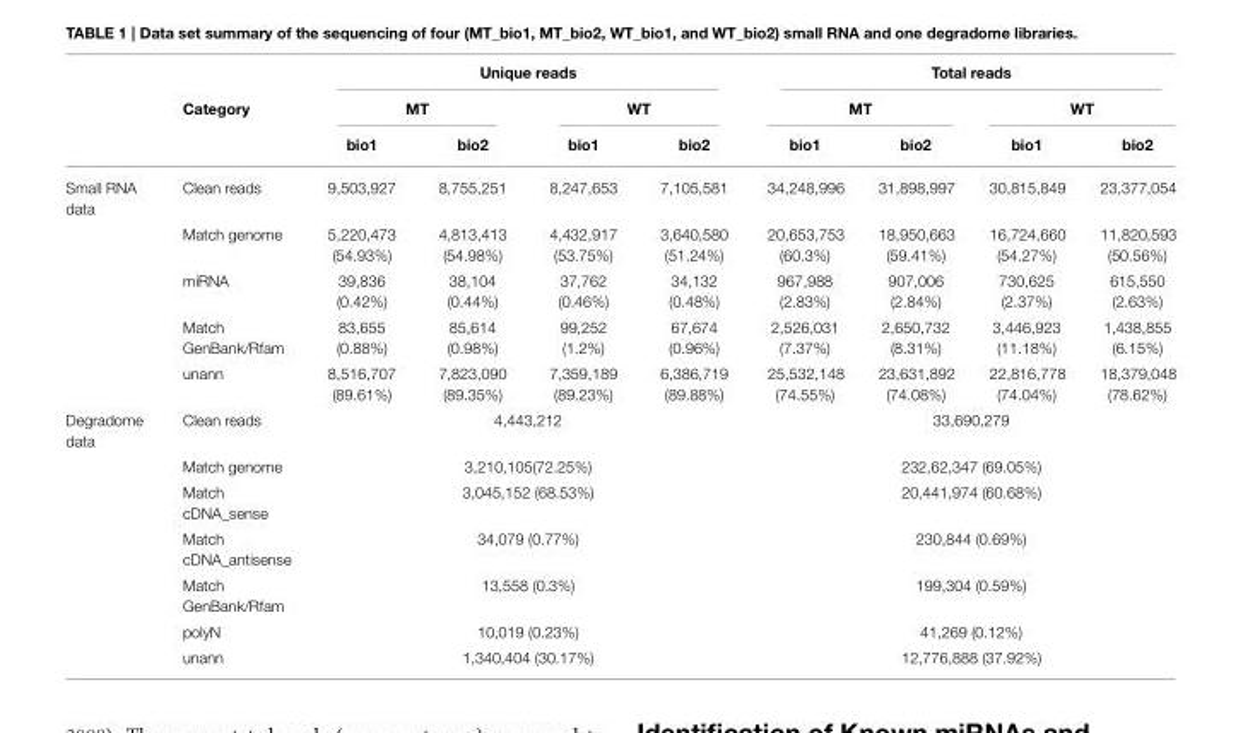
<table><thead><tr><td rowspan="3"></td><td rowspan="3">Category</td><td colspan="4">Unique reads</td><td colspan="4">Total reads</td></tr><tr><td colspan="2">MT</td><td colspan="2">WT</td><td colspan="2">MT</td><td colspan="2">WT</td></tr><tr><td>bio1</td><td>bio2</td><td>bio1</td><td>bio2</td><td>bio1</td><td>bio2</td><td>bio1</td><td>bio2</td></tr></thead><tbody><tr><td rowspan="5">Small RNA data</td><td>Clean reads</td><td>9,503,927</td><td>8,755,251</td><td>8,247,653</td><td>7,105,581</td><td>34,248,996</td><td>31,898,997</td><td>30,815,849</td><td>23,377,054</td></tr><tr><td>Match genome</td><td>5,220,473 (54.93%)</td><td>4,813,413 (54.98%)</td><td>4,432,917 (53.75%)</td><td>3,640,580 (51.24%)</td><td>20,653,753 (60.3%)</td><td>18,950,663 (59.41%)</td><td>16,724,660 (54.27%)</td><td>11,820,593 (50.56%)</td></tr><tr><td>miRNA</td><td>39,836 (0.42%)</td><td>38,104 (0.44%)</td><td>37,762 (0.46%)</td><td>34,132 (0.48%)</td><td>967,988 (2.83%)</td><td>907,006 (2.84%)</td><td>730,625 (2.37%)</td><td>615,550 (2.63%)</td></tr><tr><td>Match GenBank/Rfam</td><td>83,655 (0.88%)</td><td>85,614 (0.98%)</td><td>99,252 (1.2%)</td><td>67,674 (0.96%)</td><td>2,526,031 (7.37%)</td><td>2,650,732 (8.31%)</td><td>3,446,923 (11.18%)</td><td>1,438,855 (6.15%)</td></tr><tr><td>unann</td><td>8,516,707 (89.61%)</td><td>7,823,090 (89.35%)</td><td>7,359,189 (89.23%)</td><td>6,386,719 (89.88%)</td><td>25,532,148 (74.55%)</td><td>23,631,892 (74.08%)</td><td>22,816,778 (74.04%)</td><td>18,379,048 (78.62%)</td></tr><tr><td rowspan="7">Degradome data</td><td>Clean reads</td><td colspan="4">4,443,212</td><td colspan="4">33,690,279</td></tr><tr><td>Match genome</td><td colspan="4">3,210,105(72.25%)</td><td colspan="4">232,62,347 (69.05%)</td></tr><tr><td>Match cDNA_sense</td><td colspan="4">3,045,152 (68.53%)</td><td colspan="4">20,441,974 (60.68%)</td></tr><tr><td>Match cDNA_antisense</td><td colspan="4">34,079 (0.77%)</td><td colspan="4">230,844 (0.69%)</td></tr><tr><td>Match GenBank/Rfam</td><td colspan="4">13,558 (0.3%)</td><td colspan="4">199,304 (0.59%)</td></tr><tr><td>polyN</td><td colspan="4">10,019 (0.23%)</td><td colspan="4">41,269 (0.12%)</td></tr><tr><td>unann</td><td colspan="4">1,340,404 (30.17%)</td><td colspan="4">12,776,888 (37.92%)</td></tr></tbody></table>